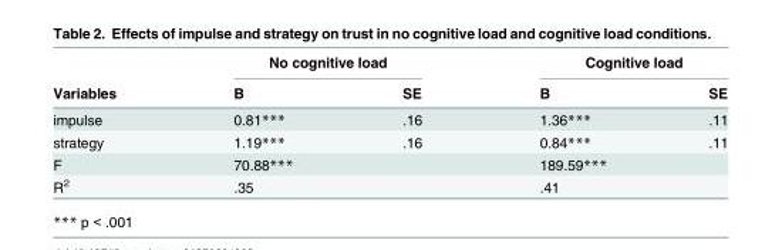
<table><thead><tr><td rowspan="2">Variables</td><td colspan="2">No cognitive load</td><td colspan="2">Cognitive load</td></tr><tr><td>B</td><td>SE</td><td>B</td><td>SE</td></tr></thead><tbody><tr><td>impulse</td><td>0.81***</td><td>.16</td><td>1.36***</td><td>.11</td></tr><tr><td>strategy</td><td>1.19***</td><td>.16</td><td>0.84***</td><td>.11</td></tr><tr><td>F</td><td colspan="2">70.88***</td><td colspan="2">189.59***</td></tr><tr><td>R<sup>2</sup></td><td colspan="2">.35</td><td colspan="2">.41</td></tr></tbody></table>